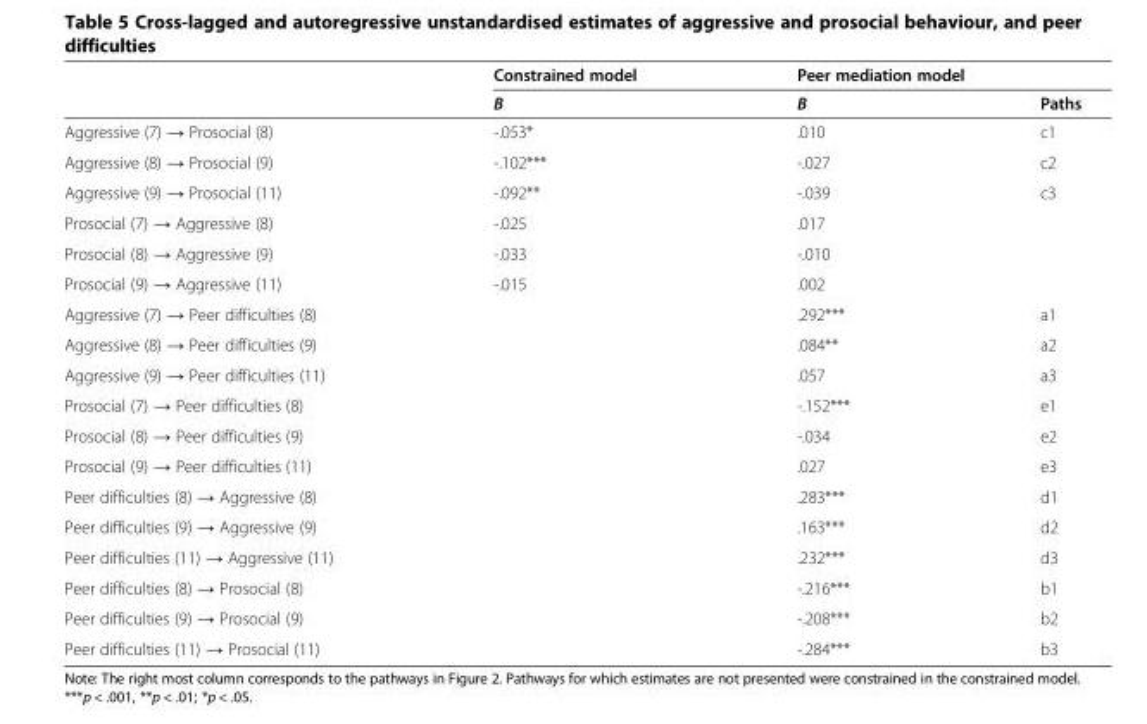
<table><thead><tr><td rowspan="2"></td><td rowspan="2">Constrained model B</td><td colspan="2">Peer mediation model</td></tr><tr><td>B</td><td>Paths</td></tr></thead><tbody><tr><td>Aggressive (7) → Prosocial (8)</td><td>-.053*</td><td>.010</td><td>c1</td></tr><tr><td>Aggressive (8) → Prosocial (9)</td><td>-.102***</td><td>-.027</td><td>c2</td></tr><tr><td>Aggressive (9) → Prosocial (11)</td><td>-.092**</td><td>-.039</td><td>c3</td></tr><tr><td>Prosocial (7) → Aggressive (8)</td><td>-.025</td><td>.017</td><td></td></tr><tr><td>Prosocial (8) → Aggressive (9)</td><td>-.033</td><td>-.010</td><td></td></tr><tr><td>Prosocial (9) → Aggressive (11)</td><td>-.015</td><td>.002</td><td></td></tr><tr><td>Aggressive (7) → Peer difficulties (8)</td><td></td><td>.292***</td><td>a1</td></tr><tr><td>Aggressive (8) → Peer difficulties (9)</td><td></td><td>.084**</td><td>a2</td></tr><tr><td>Aggressive (9) → Peer difficulties (11)</td><td></td><td>.057</td><td>a3</td></tr><tr><td>Prosocial (7) → Peer difficulties (8)</td><td></td><td>-.152***</td><td>e1</td></tr><tr><td>Prosocial (8) → Peer difficulties (9)</td><td></td><td>-.034</td><td>e2</td></tr><tr><td>Prosocial (9) → Peer difficulties (11)</td><td></td><td>.027</td><td>e3</td></tr><tr><td>Peer difficulties (8) → Aggressive (8)</td><td></td><td>.283***</td><td>d1</td></tr><tr><td>Peer difficulties (9) → Aggressive (9)</td><td></td><td>.163***</td><td>d2</td></tr><tr><td>Peer difficulties (11) → Aggressive (11)</td><td></td><td>.232***</td><td>d3</td></tr><tr><td>Peer difficulties (8) → Prosocial (8)</td><td></td><td>-.216***</td><td>b1</td></tr><tr><td>Peer difficulties (9) → Prosocial (9)</td><td></td><td>-.208***</td><td>b2</td></tr><tr><td>Peer difficulties (11) → Prosocial (11)</td><td></td><td>-.284***</td><td>b3</td></tr></tbody></table>